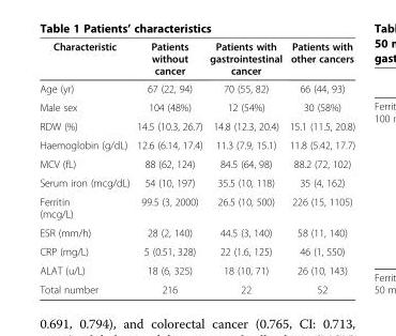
<table><thead><tr><td>Characteristic</td><td>Patients without cancer</td><td>Patients with gastrointestinal cancer</td><td>Patients with other cancers</td></tr></thead><tbody><tr><td>Age (yr)</td><td>67 (22, 94)</td><td>70 (55, 82)</td><td>66 (44, 93)</td></tr><tr><td>Male sex</td><td>104 (48%)</td><td>12 (54%)</td><td>30 (58%)</td></tr><tr><td>RDW (%)</td><td>14.5 (10.3, 26.7)</td><td>14.8 (12.3, 20.4)</td><td>15.1 (11.5, 20.8)</td></tr><tr><td>Haemoglobin (g/dL)</td><td>12.6 (6.14, 17.4)</td><td>11.3 (7.9, 15.1)</td><td>11.8 (5.42, 17.7)</td></tr><tr><td>MCV (fL)</td><td>88 (62, 124)</td><td>84.5 (64, 98)</td><td>88.2 (72, 102)</td></tr><tr><td>Serum iron (mcg/dL)</td><td>54 (10, 197)</td><td>35.5 (10, 118)</td><td>35 (4, 162)</td></tr><tr><td>Ferritin (mcg/L)</td><td>99.5 (3, 2000)</td><td>26.5 (10, 500)</td><td>226 (15, 1105)</td></tr><tr><td>ESR (mm/h)</td><td>28 (2, 140)</td><td>44.5 (3, 140)</td><td>58 (11, 140)</td></tr><tr><td>CRP (mg/L)</td><td>5 (0.51, 328)</td><td>22 (1.6, 125)</td><td>46 (1, 550)</td></tr><tr><td>ALAT (u/L)</td><td>18 (6, 325)</td><td>18 (10, 71)</td><td>26 (10, 143)</td></tr><tr><td>Total number</td><td>216</td><td>22</td><td>52</td></tr></tbody></table>